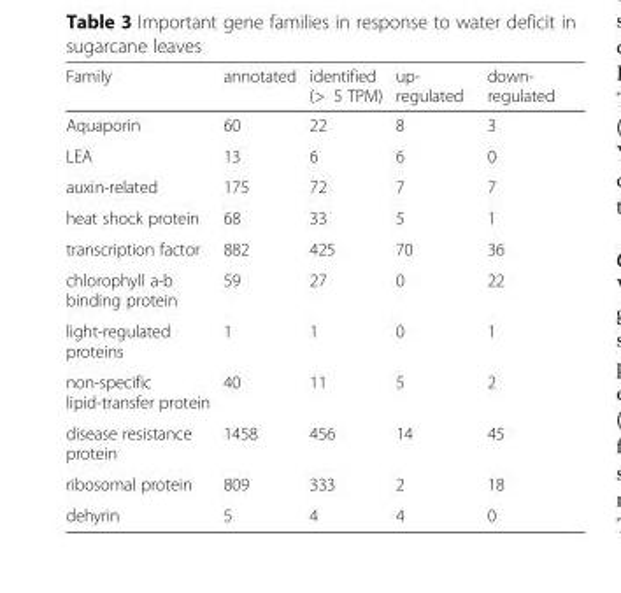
<table><thead><tr><td>Family</td><td>annotated</td><td>identified (&gt; 5 TPM)</td><td>up- regulated</td><td>down- regulated</td></tr></thead><tbody><tr><td>Aquaporin</td><td>60</td><td>22</td><td>8</td><td>3</td></tr><tr><td>LEA</td><td>13</td><td>6</td><td>6</td><td>0</td></tr><tr><td>auxin-related</td><td>175</td><td>72</td><td>7</td><td>7</td></tr><tr><td>heat shock protein</td><td>68</td><td>33</td><td>5</td><td>1</td></tr><tr><td>transcription factor</td><td>882</td><td>425</td><td>70</td><td>36</td></tr><tr><td>chlorophyll a-b binding protein</td><td>59</td><td>27</td><td>0</td><td>22</td></tr><tr><td>light-regulated proteins</td><td>1</td><td>1</td><td>0</td><td>1</td></tr><tr><td>non-specific lipid-transfer protein</td><td>40</td><td>11</td><td>5</td><td>2</td></tr><tr><td>disease resistance protein</td><td>1458</td><td>456</td><td>14</td><td>45</td></tr><tr><td>ribosomal protein</td><td>809</td><td>333</td><td>2</td><td>18</td></tr><tr><td>dehyrin</td><td>5</td><td>4</td><td>4</td><td>0</td></tr></tbody></table>